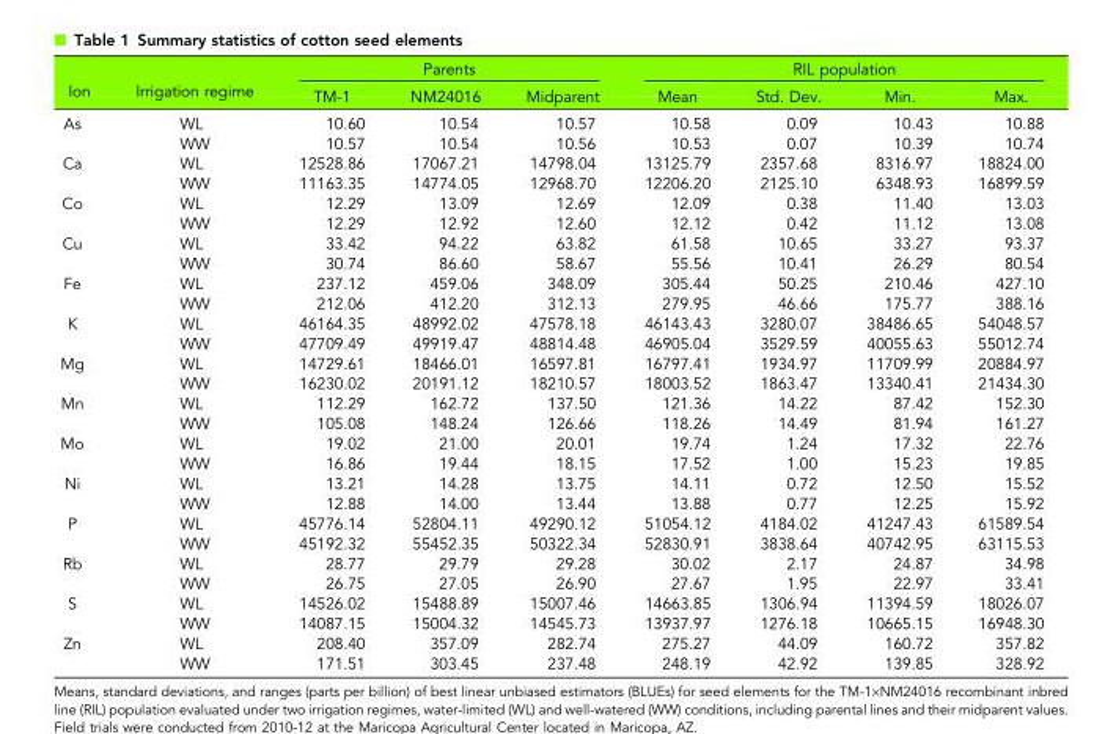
<table><thead><tr><td rowspan="2">Ion</td><td rowspan="2">Irrigation regime</td><td colspan="3">Parents</td><td colspan="4">RIL population</td></tr><tr><td>TM-1</td><td>NM24016</td><td>Midparent</td><td>Mean</td><td>Std. Dev.</td><td>Min.</td><td>Max.</td></tr></thead><tbody><tr><td rowspan="2">As</td><td>WL</td><td>10.60</td><td>10.54</td><td>10.57</td><td>10.58</td><td>0.09</td><td>10.43</td><td>10.88</td></tr><tr><td>WW</td><td>10.57</td><td>10.54</td><td>10.56</td><td>10.53</td><td>0.07</td><td>10.39</td><td>10.74</td></tr><tr><td rowspan="2">Ca</td><td>WL</td><td>12528.86</td><td>17067.21</td><td>14798.04</td><td>13125.79</td><td>2357.68</td><td>8316.97</td><td>18824.00</td></tr><tr><td>WW</td><td>11163.35</td><td>14774.05</td><td>12968.70</td><td>12206.20</td><td>2125.10</td><td>6348.93</td><td>16899.59</td></tr><tr><td rowspan="2">Co</td><td>WL</td><td>12.29</td><td>13.09</td><td>12.69</td><td>12.09</td><td>0.38</td><td>11.40</td><td>13.03</td></tr><tr><td>WW</td><td>12.29</td><td>12.92</td><td>12.60</td><td>12.12</td><td>0.42</td><td>11.12</td><td>13.08</td></tr><tr><td rowspan="2">Cu</td><td>WL</td><td>33.42</td><td>94.22</td><td>63.82</td><td>61.58</td><td>10.65</td><td>33.27</td><td>93.37</td></tr><tr><td>WW</td><td>30.74</td><td>86.60</td><td>58.67</td><td>55.56</td><td>10.41</td><td>26.29</td><td>80.54</td></tr><tr><td rowspan="2">Fe</td><td>WL</td><td>237.12</td><td>459.06</td><td>348.09</td><td>305.44</td><td>50.25</td><td>210.46</td><td>427.10</td></tr><tr><td>WW</td><td>212.06</td><td>412.20</td><td>312.13</td><td>279.95</td><td>46.66</td><td>175.77</td><td>388.16</td></tr><tr><td rowspan="2">K</td><td>WL</td><td>46164.35</td><td>48992.02</td><td>47578.18</td><td>46143.43</td><td>3280.07</td><td>38486.65</td><td>54048.57</td></tr><tr><td>WW</td><td>47709.49</td><td>49919.47</td><td>48814.48</td><td>46905.04</td><td>3529.59</td><td>40055.63</td><td>55012.74</td></tr><tr><td rowspan="2">Mg</td><td>WL</td><td>14729.61</td><td>18466.01</td><td>16597.81</td><td>16797.41</td><td>1934.97</td><td>11709.99</td><td>20884.97</td></tr><tr><td>WW</td><td>16230.02</td><td>20191.12</td><td>18210.57</td><td>18003.52</td><td>1863.47</td><td>13340.41</td><td>21434.30</td></tr><tr><td rowspan="2">Mn</td><td>WL</td><td>112.29</td><td>162.72</td><td>137.50</td><td>121.36</td><td>14.22</td><td>87.42</td><td>152.30</td></tr><tr><td>WW</td><td>105.08</td><td>148.24</td><td>126.66</td><td>118.26</td><td>14.49</td><td>81.94</td><td>161.27</td></tr><tr><td rowspan="2">Mo</td><td>WL</td><td>19.02</td><td>21.00</td><td>20.01</td><td>19.74</td><td>1.24</td><td>17.32</td><td>22.76</td></tr><tr><td>WW</td><td>16.86</td><td>19.44</td><td>18.15</td><td>17.52</td><td>1.00</td><td>15.23</td><td>19.85</td></tr><tr><td rowspan="2">Ni</td><td>WL</td><td>13.21</td><td>14.28</td><td>13.75</td><td>14.11</td><td>0.72</td><td>12.50</td><td>15.52</td></tr><tr><td>WW</td><td>12.88</td><td>14.00</td><td>13.44</td><td>13.88</td><td>0.77</td><td>12.25</td><td>15.92</td></tr><tr><td rowspan="2">P</td><td>WL</td><td>45776.14</td><td>52804.11</td><td>49290.12</td><td>51054.12</td><td>4184.02</td><td>41247.43</td><td>61589.54</td></tr><tr><td>WW</td><td>45192.32</td><td>55452.35</td><td>50322.34</td><td>52830.91</td><td>3838.64</td><td>40742.95</td><td>63115.53</td></tr><tr><td rowspan="2">Rb</td><td>WL</td><td>28.77</td><td>29.79</td><td>29.28</td><td>30.02</td><td>2.17</td><td>24.87</td><td>34.98</td></tr><tr><td>WW</td><td>26.75</td><td>27.05</td><td>26.90</td><td>27.67</td><td>1.95</td><td>22.97</td><td>33.41</td></tr><tr><td rowspan="2">S</td><td>WL</td><td>14526.02</td><td>15488.89</td><td>15007.46</td><td>14663.85</td><td>1306.94</td><td>11394.59</td><td>18026.07</td></tr><tr><td>WW</td><td>14087.15</td><td>15004.32</td><td>14545.73</td><td>13937.97</td><td>1276.18</td><td>10665.15</td><td>16948.30</td></tr><tr><td rowspan="2">Zn</td><td>WL</td><td>208.40</td><td>357.09</td><td>282.74</td><td>275.27</td><td>44.09</td><td>160.72</td><td>357.82</td></tr><tr><td>WW</td><td>171.51</td><td>303.45</td><td>237.48</td><td>248.19</td><td>42.92</td><td>139.85</td><td>328.92</td></tr></tbody></table>